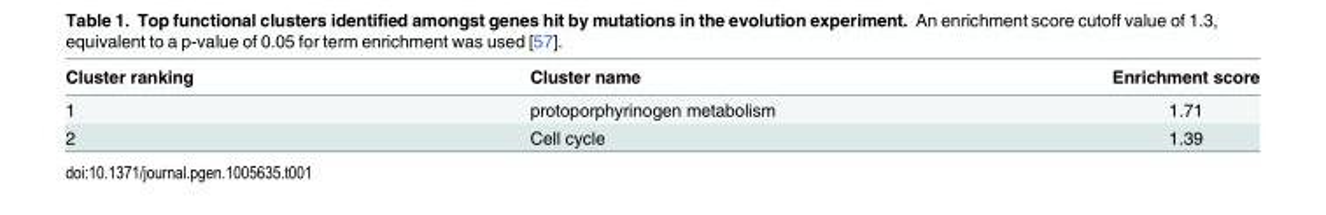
<table><thead><tr><td>Cluster ranking</td><td>Cluster name</td><td>Enrichment score</td></tr></thead><tbody><tr><td>1</td><td>protoporphyrinogen metabolism</td><td>1.71</td></tr><tr><td>2</td><td>Cell cycle</td><td>1.39</td></tr></tbody></table>